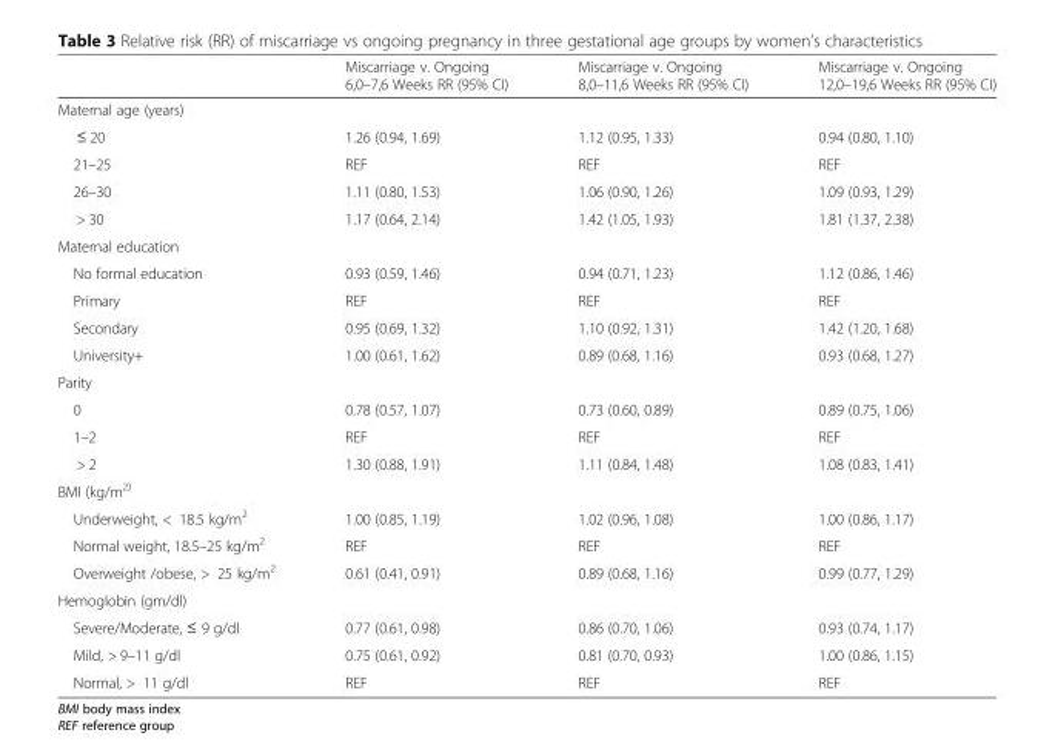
<table><thead><tr><td></td><td>Miscarriage v. Ongoing 6,0–7,6 Weeks RR (95% CI)</td><td>Miscarriage v. Ongoing 8,0–11,6 Weeks RR (95% CI)</td><td>Miscarriage v. Ongoing 12,0–19,6 Weeks RR (95% CI)</td></tr></thead><tbody><tr><td colspan="4">Maternal age (years)</td></tr><tr><td>≤ 20</td><td>1.26 (0.94, 1.69)</td><td>1.12 (0.95, 1.33)</td><td>0.94 (0.80, 1.10)</td></tr><tr><td>21–25</td><td>REF</td><td>REF</td><td>REF</td></tr><tr><td>26–30</td><td>1.11 (0.80, 1.53)</td><td>1.06 (0.90, 1.26)</td><td>1.09 (0.93, 1.29)</td></tr><tr><td>&gt; 30</td><td>1.17 (0.64, 2.14)</td><td>1.42 (1.05, 1.93)</td><td>1.81 (1.37, 2.38)</td></tr><tr><td colspan="4">Maternal education</td></tr><tr><td>No formal education</td><td>0.93 (0.59, 1.46)</td><td>0.94 (0.71, 1.23)</td><td>1.12 (0.86, 1.46)</td></tr><tr><td>Primary</td><td>REF</td><td>REF</td><td>REF</td></tr><tr><td>Secondary</td><td>0.95 (0.69, 1.32)</td><td>1.10 (0.92, 1.31)</td><td>1.42 (1.20, 1.68)</td></tr><tr><td>University+</td><td>1.00 (0.61, 1.62)</td><td>0.89 (0.68, 1.16)</td><td>0.93 (0.68, 1.27)</td></tr><tr><td colspan="4">Parity</td></tr><tr><td>0</td><td>0.78 (0.57, 1.07)</td><td>0.73 (0.60, 0.89)</td><td>0.89 (0.75, 1.06)</td></tr><tr><td>1–2</td><td>REF</td><td>REF</td><td>REF</td></tr><tr><td>&gt; 2</td><td>1.30 (0.88, 1.91)</td><td>1.11 (0.84, 1.48)</td><td>1.08 (0.83, 1.41)</td></tr><tr><td colspan="4">BMI (kg/m<sup>2)</sup></td></tr><tr><td>Underweight, &lt; 18.5 kg/m<sup>2</sup></td><td>1.00 (0.85, 1.19)</td><td>1.02 (0.96, 1.08)</td><td>1.00 (0.86, 1.17)</td></tr><tr><td>Normal weight, 18.5–25 kg/m<sup>2</sup></td><td>REF</td><td>REF</td><td>REF</td></tr><tr><td>Overweight /obese, &gt; 25 kg/m<sup>2</sup></td><td>0.61 (0.41, 0.91)</td><td>0.89 (0.68, 1.16)</td><td>0.99 (0.77, 1.29)</td></tr><tr><td colspan="4">Hemoglobin (gm/dl)</td></tr><tr><td>Severe/Moderate, ≤ 9 g/dl</td><td>0.77 (0.61, 0.98)</td><td>0.86 (0.70, 1.06)</td><td>0.93 (0.74, 1.17)</td></tr><tr><td>Mild, &gt; 9–11 g/dl</td><td>0.75 (0.61, 0.92)</td><td>0.81 (0.70, 0.93)</td><td>1.00 (0.86, 1.15)</td></tr><tr><td>Normal, &gt; 11 g/dl</td><td>REF</td><td>REF</td><td>REF</td></tr></tbody></table>